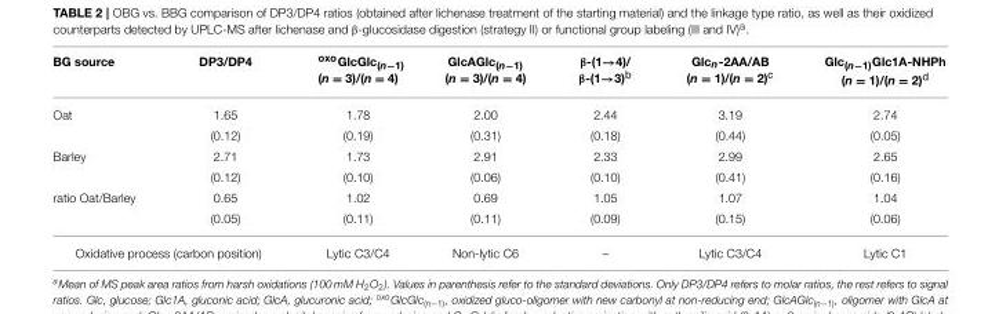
<table><thead><tr><td>BG source</td><td>DP3/DP4</td><td>oxoGlcGlc(n−1) (n = 3)/(n = 4)</td><td>GlcAGlc(n−1) (n = 3)/(n = 4)</td><td>β-(1→4)/ β-(1→3)<sup>b</sup></td><td>Glcn-2AA/AB (n = 1)/(n = 2)c</td><td>Glc(n−1)Glc1A-NHPh (n = 1)/(n = 2)d</td></tr></thead><tbody><tr><td rowspan="2">Oat</td><td>1.65</td><td>1.78</td><td>2.00</td><td>2.44</td><td>3.19</td><td>2.74</td></tr><tr><td>(0.12)</td><td>(0.19)</td><td>(0.31)</td><td>(0.18)</td><td>(0.44)</td><td>(0.05)</td></tr><tr><td rowspan="2">Barley</td><td>2.71</td><td>1.73</td><td>2.91</td><td>2.33</td><td>2.99</td><td>2.65</td></tr><tr><td>(0.12)</td><td>(0.10)</td><td>(0.06)</td><td>(0.10)</td><td>(0.41)</td><td>(0.16)</td></tr><tr><td rowspan="2">ratio Oat/Barley</td><td>0.65</td><td>1.02</td><td>0.69</td><td>1.05</td><td>1.07</td><td>1.04</td></tr><tr><td>(0.05)</td><td>(0.11)</td><td>(0.11)</td><td>(0.09)</td><td>(0.15)</td><td>(0.06)</td></tr><tr><td colspan="2">Oxidative process (carbon position)</td><td>Lytic C3/C4</td><td>Non-lytic C6</td><td>–</td><td>Lytic C3/C4</td><td>Lytic C1</td></tr></tbody></table>